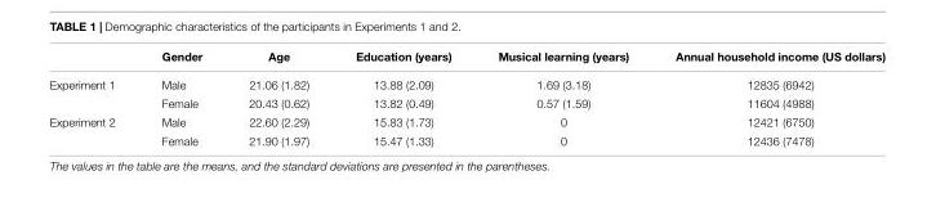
<table><thead><tr><td></td><td>Gender</td><td>Age</td><td>Education (years)</td><td>Musical learning (years)</td><td>Annual household income (US dollars)</td></tr></thead><tbody><tr><td rowspan="2">Experiment 1</td><td>Male</td><td>21.06 (1.82)</td><td>13.88 (2.09)</td><td>1.69 (3.18)</td><td>12835 (6942)</td></tr><tr><td>Female</td><td>20.43 (0.62)</td><td>13.82 (0.49)</td><td>0.57 (1.59)</td><td>11604 (4988)</td></tr><tr><td rowspan="2">Experiment 2</td><td>Male</td><td>22.60 (2.29)</td><td>15.83 (1.73)</td><td>0</td><td>12421 (6750)</td></tr><tr><td>Female</td><td>21.90 (1.97)</td><td>15.47 (1.33)</td><td>0</td><td>12436 (7478)</td></tr></tbody></table>